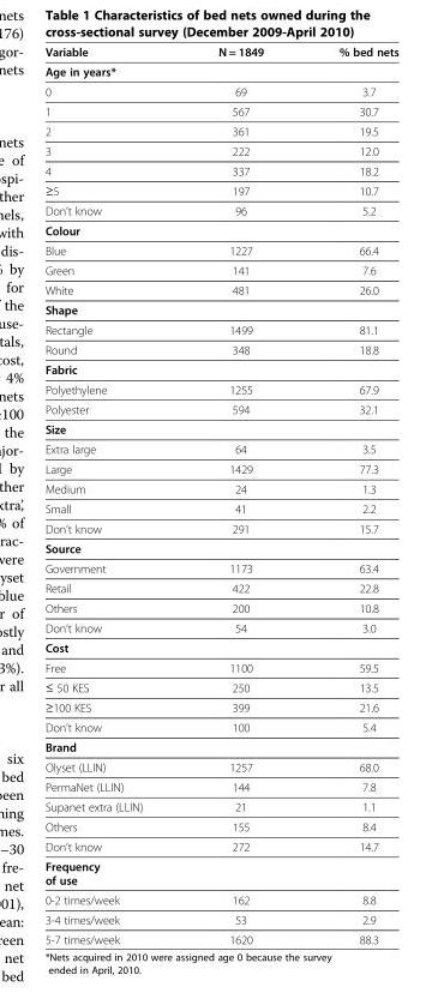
<table><thead><tr><td>Variable</td><td>N = 1849</td><td>% bed nets</td></tr></thead><tbody><tr><td colspan="3">Age in years*</td></tr><tr><td>0</td><td>69</td><td>3.7</td></tr><tr><td>1</td><td>567</td><td>30.7</td></tr><tr><td>2</td><td>361</td><td>19.5</td></tr><tr><td>3</td><td>222</td><td>12.0</td></tr><tr><td>4</td><td>337</td><td>18.2</td></tr><tr><td>≥5</td><td>197</td><td>10.7</td></tr><tr><td>Don’t know</td><td>96</td><td>5.2</td></tr><tr><td colspan="3">Colour</td></tr><tr><td>Blue</td><td>1227</td><td>66.4</td></tr><tr><td>Green</td><td>141</td><td>7.6</td></tr><tr><td>White</td><td>481</td><td>26.0</td></tr><tr><td colspan="3">Shape</td></tr><tr><td>Rectangle</td><td>1499</td><td>81.1</td></tr><tr><td>Round</td><td>348</td><td>18.8</td></tr><tr><td colspan="3">Fabric</td></tr><tr><td>Polyethylene</td><td>1255</td><td>67.9</td></tr><tr><td>Polyester</td><td>594</td><td>32.1</td></tr><tr><td colspan="3">Size</td></tr><tr><td>Extra large</td><td>64</td><td>3.5</td></tr><tr><td>Large</td><td>1429</td><td>77.3</td></tr><tr><td>Medium</td><td>24</td><td>1.3</td></tr><tr><td>Small</td><td>41</td><td>2.2</td></tr><tr><td>Don’t know</td><td>291</td><td>15.7</td></tr><tr><td colspan="3">Source</td></tr><tr><td>Government</td><td>1173</td><td>63.4</td></tr><tr><td>Retail</td><td>422</td><td>22.8</td></tr><tr><td>Others</td><td>200</td><td>10.8</td></tr><tr><td>Don’t know</td><td>54</td><td>3.0</td></tr><tr><td colspan="3">Cost</td></tr><tr><td>Free</td><td>1100</td><td>59.5</td></tr><tr><td>≤ 50 KES</td><td>250</td><td>13.5</td></tr><tr><td>≥100 KES</td><td>399</td><td>21.6</td></tr><tr><td>Don’t know</td><td>100</td><td>5.4</td></tr><tr><td colspan="3">Brand</td></tr><tr><td>Olyset (LLIN)</td><td>1257</td><td>68.0</td></tr><tr><td>PermaNet (LLIN)</td><td>144</td><td>7.8</td></tr><tr><td>Supanet extra (LLIN)</td><td>21</td><td>1.1</td></tr><tr><td>Others</td><td>155</td><td>8.4</td></tr><tr><td>Don’t know</td><td>272</td><td>14.7</td></tr><tr><td colspan="3">Frequency of use</td></tr><tr><td>0-2 times/week</td><td>162</td><td>8.8</td></tr><tr><td>3-4 times/week</td><td>53</td><td>2.9</td></tr><tr><td>5-7 times/week</td><td>1620</td><td>88.3</td></tr></tbody></table>